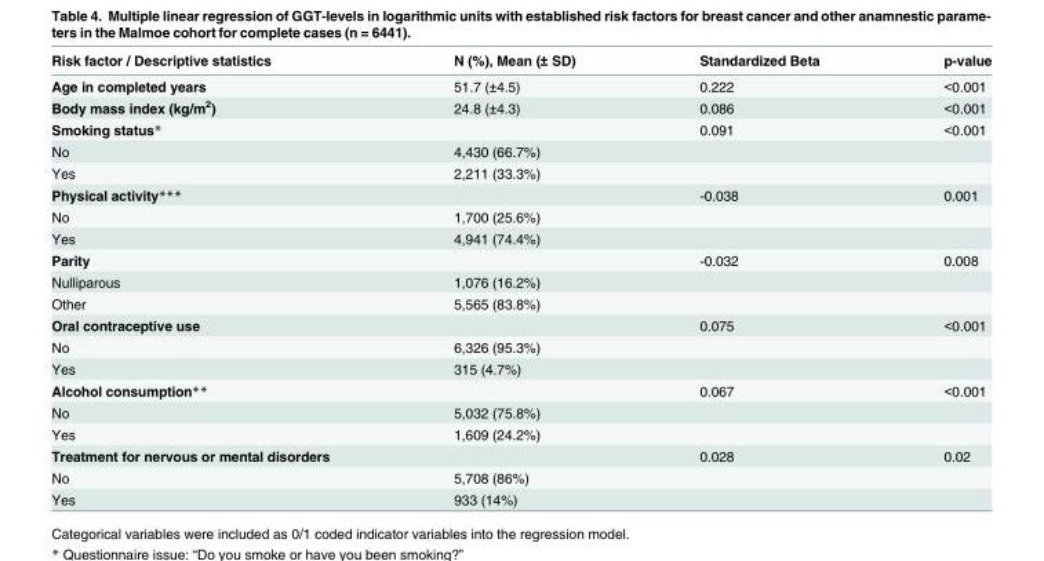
<table><thead><tr><td>Risk factor / Descriptive statistics</td><td>N (%), Mean (± SD)</td><td>Standardized Beta</td><td>p-value</td></tr></thead><tbody><tr><td>Age in completed years</td><td>51.7 (±4.5)</td><td>0.222</td><td>&lt;0.001</td></tr><tr><td>Body mass index (kg/m<sup>2</sup>)</td><td>24.8 (±4.3)</td><td>0.086</td><td>&lt;0.001</td></tr><tr><td>Smoking status*</td><td></td><td>0.091</td><td>&lt;0.001</td></tr><tr><td>No</td><td>4,430 (66.7%)</td><td></td><td></td></tr><tr><td>Yes</td><td>2,211 (33.3%)</td><td></td><td></td></tr><tr><td>Physical activity***</td><td></td><td>-0.038</td><td>0.001</td></tr><tr><td>No</td><td>1,700 (25.6%)</td><td></td><td></td></tr><tr><td>Yes</td><td>4,941 (74.4%)</td><td></td><td></td></tr><tr><td>Parity</td><td></td><td>-0.032</td><td>0.008</td></tr><tr><td>Nulliparous</td><td>1,076 (16.2%)</td><td></td><td></td></tr><tr><td>Other</td><td>5,565 (83.8%)</td><td></td><td></td></tr><tr><td>Oral contraceptive use</td><td></td><td>0.075</td><td>&lt;0.001</td></tr><tr><td>No</td><td>6,326 (95.3%)</td><td></td><td></td></tr><tr><td>Yes</td><td>315 (4.7%)</td><td></td><td></td></tr><tr><td>Alcohol consumption**</td><td></td><td>0.067</td><td>&lt;0.001</td></tr><tr><td>No</td><td>5,032 (75.8%)</td><td></td><td></td></tr><tr><td>Yes</td><td>1,609 (24.2%)</td><td></td><td></td></tr><tr><td>Treatment for nervous or mental disorders</td><td></td><td>0.028</td><td>0.02</td></tr><tr><td>No</td><td>5,708 (86%)</td><td></td><td></td></tr><tr><td>Yes</td><td>933 (14%)</td><td></td><td></td></tr></tbody></table>